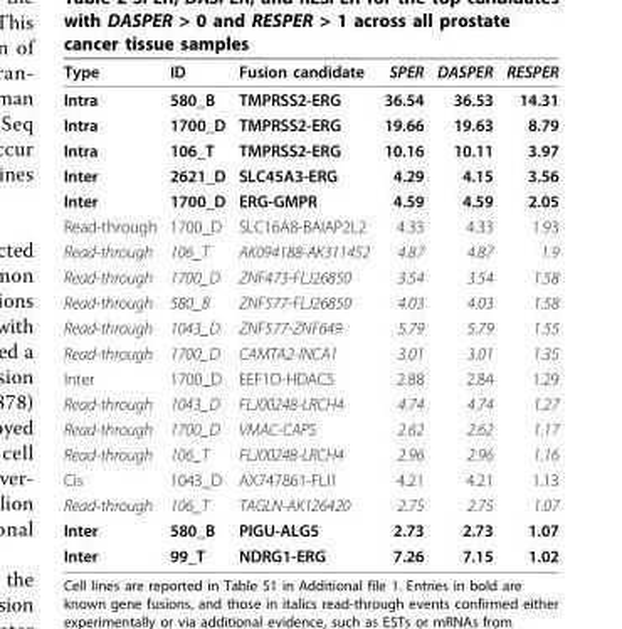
<table><thead><tr><td>Type</td><td>ID</td><td>Fusion candidate</td><td>SPER</td><td>DASPER</td><td>RESPER</td></tr></thead><tbody><tr><td>Intra</td><td>580_B</td><td>TMPRSS2-ERG</td><td>36.54</td><td>36.53</td><td>14.31</td></tr><tr><td>Intra</td><td>1700_D</td><td>TMPRSS2-ERG</td><td>19.66</td><td>19.63</td><td>8.79</td></tr><tr><td>Intra</td><td>106_T</td><td>TMPRSS2-ERG</td><td>10.16</td><td>10.11</td><td>3.97</td></tr><tr><td>Inter</td><td>2621_D</td><td>SLC45A3-ERG</td><td>4.29</td><td>4.15</td><td>3.56</td></tr><tr><td>Inter</td><td>1700_D</td><td>ERG-GMPR</td><td>4.59</td><td>4.59</td><td>2.05</td></tr><tr><td>Read-through</td><td>1700_D</td><td>SLC16A8-BAIAP2L2</td><td>4.33</td><td>4.33</td><td>1.93</td></tr><tr><td>Read-through</td><td>106_T</td><td>AK094188-AK311452</td><td>4.87</td><td>4.87</td><td>1.9</td></tr><tr><td>Read-through</td><td>1700_D</td><td>ZNF473-FLJ26850</td><td>3.54</td><td>3.54</td><td>1.58</td></tr><tr><td>Read-through</td><td>580_B</td><td>ZNF577-FLJ26850</td><td>4.03</td><td>4.03</td><td>1.58</td></tr><tr><td>Read-through</td><td>1043_D</td><td>ZNF577-ZNF649</td><td>5.79</td><td>5.79</td><td>1.55</td></tr><tr><td>Read-through</td><td>1700_D</td><td>CAMTA2-INCA1</td><td>3.01</td><td>3.01</td><td>1.35</td></tr><tr><td>Inter</td><td>1700_D</td><td>EEF1D-HDAC5</td><td>2.88</td><td>2.84</td><td>1.29</td></tr><tr><td>Read-through</td><td>1043_D</td><td>FLJ00248-LRCH4</td><td>4.74</td><td>4.74</td><td>1.27</td></tr><tr><td>Read-through</td><td>1700_D</td><td>VMAC-CAPS</td><td>2.62</td><td>2.62</td><td>1.17</td></tr><tr><td>Read-through</td><td>106_T</td><td>FLJ00248-LRCH4</td><td>2.96</td><td>2.96</td><td>1.16</td></tr><tr><td>Cis</td><td>1043_D</td><td>AX747861-FLI1</td><td>4.21</td><td>4.21</td><td>1.13</td></tr><tr><td>Read-through</td><td>106_T</td><td>TAGLN-AK126420</td><td>2.75</td><td>2.75</td><td>1.07</td></tr><tr><td>Inter</td><td>580_B</td><td>PIGU-ALG5</td><td>2.73</td><td>2.73</td><td>1.07</td></tr><tr><td>Inter</td><td>99_T</td><td>NDRG1-ERG</td><td>7.26</td><td>7.15</td><td>1.02</td></tr></tbody></table>